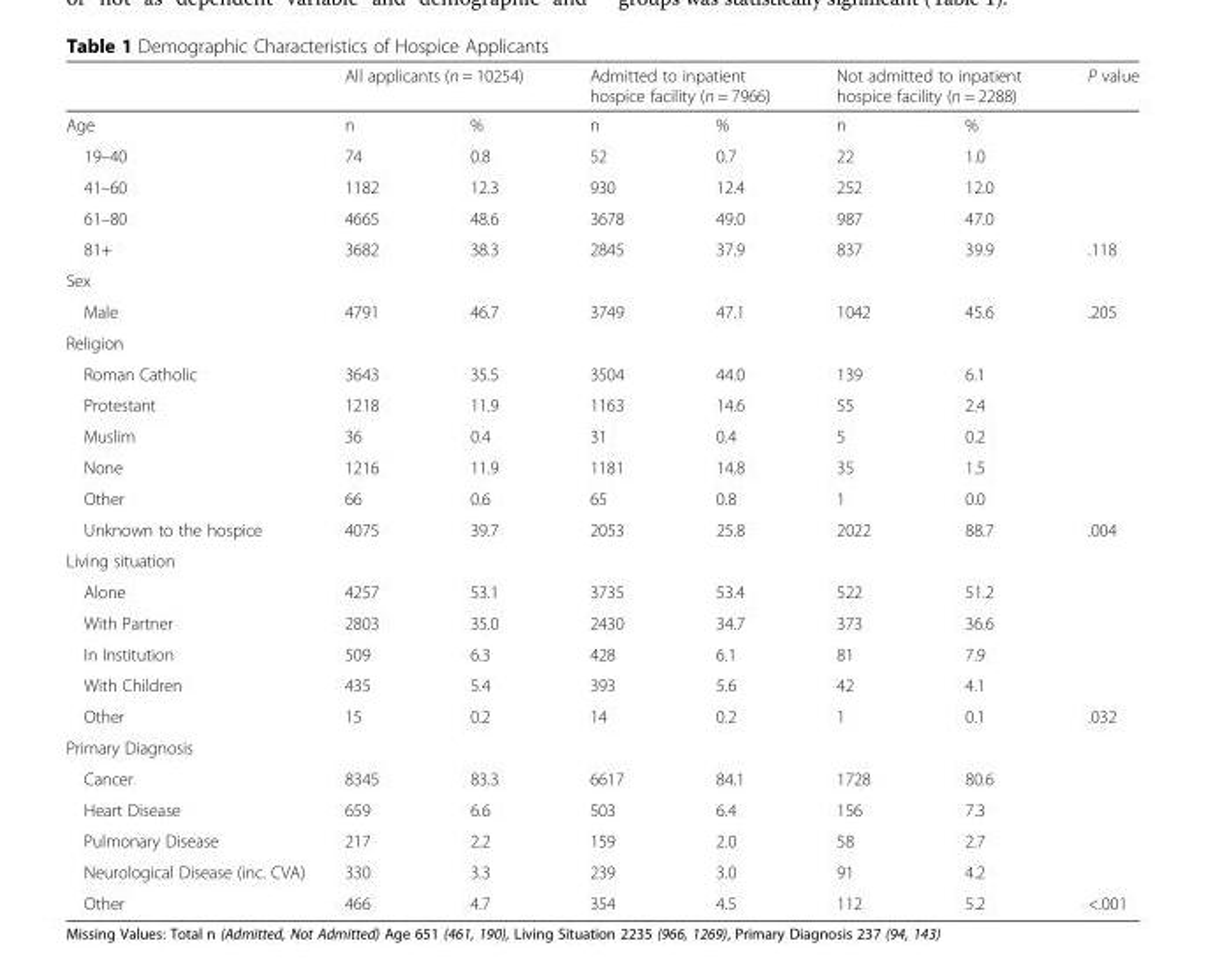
<table><thead><tr><td rowspan="2">Age</td><td colspan="2">All applicants (n = 10254)</td><td colspan="2">Admitted to inpatient hospice facility (n = 7966)</td><td colspan="2">Not admitted to inpatient hospice facility (n = 2288)</td><td rowspan="2">P value</td></tr><tr><td>n</td><td>%</td><td>n</td><td>%</td><td>n</td><td>%</td></tr></thead><tbody><tr><td>19–40</td><td>74</td><td>0.8</td><td>52</td><td>0.7</td><td>22</td><td>1.0</td><td></td></tr><tr><td>41–60</td><td>1182</td><td>12.3</td><td>930</td><td>12.4</td><td>252</td><td>12.0</td><td></td></tr><tr><td>61–80</td><td>4665</td><td>48.6</td><td>3678</td><td>49.0</td><td>987</td><td>47.0</td><td></td></tr><tr><td>81+</td><td>3682</td><td>38.3</td><td>2845</td><td>37.9</td><td>837</td><td>39.9</td><td>.118</td></tr><tr><td colspan="8">Sex</td></tr><tr><td>Male</td><td>4791</td><td>46.7</td><td>3749</td><td>47.1</td><td>1042</td><td>45.6</td><td>.205</td></tr><tr><td colspan="8">Religion</td></tr><tr><td>Roman Catholic</td><td>3643</td><td>35.5</td><td>3504</td><td>44.0</td><td>139</td><td>6.1</td><td></td></tr><tr><td>Protestant</td><td>1218</td><td>11.9</td><td>1163</td><td>14.6</td><td>55</td><td>2.4</td><td></td></tr><tr><td>Muslim</td><td>36</td><td>0.4</td><td>31</td><td>0.4</td><td>5</td><td>0.2</td><td></td></tr><tr><td>None</td><td>1216</td><td>11.9</td><td>1181</td><td>14.8</td><td>35</td><td>1.5</td><td></td></tr><tr><td>Other</td><td>66</td><td>0.6</td><td>65</td><td>0.8</td><td>1</td><td>0.0</td><td></td></tr><tr><td>Unknown to the hospice</td><td>4075</td><td>39.7</td><td>2053</td><td>25.8</td><td>2022</td><td>88.7</td><td>.004</td></tr><tr><td colspan="8">Living situation</td></tr><tr><td>Alone</td><td>4257</td><td>53.1</td><td>3735</td><td>53.4</td><td>522</td><td>51.2</td><td></td></tr><tr><td>With Partner</td><td>2803</td><td>35.0</td><td>2430</td><td>34.7</td><td>373</td><td>36.6</td><td></td></tr><tr><td>In Institution</td><td>509</td><td>6.3</td><td>428</td><td>6.1</td><td>81</td><td>7.9</td><td></td></tr><tr><td>With Children</td><td>435</td><td>5.4</td><td>393</td><td>5.6</td><td>42</td><td>4.1</td><td></td></tr><tr><td>Other</td><td>15</td><td>0.2</td><td>14</td><td>0.2</td><td>1</td><td>0.1</td><td>.032</td></tr><tr><td colspan="8">Primary Diagnosis</td></tr><tr><td>Cancer</td><td>8345</td><td>83.3</td><td>6617</td><td>84.1</td><td>1728</td><td>80.6</td><td></td></tr><tr><td>Heart Disease</td><td>659</td><td>6.6</td><td>503</td><td>6.4</td><td>156</td><td>7.3</td><td></td></tr><tr><td>Pulmonary Disease</td><td>217</td><td>2.2</td><td>159</td><td>2.0</td><td>58</td><td>2.7</td><td></td></tr><tr><td>Neurological Disease (inc. CVA)</td><td>330</td><td>3.3</td><td>239</td><td>3.0</td><td>91</td><td>4.2</td><td></td></tr><tr><td>Other</td><td>466</td><td>4.7</td><td>354</td><td>4.5</td><td>112</td><td>5.2</td><td>&lt;.001</td></tr></tbody></table>